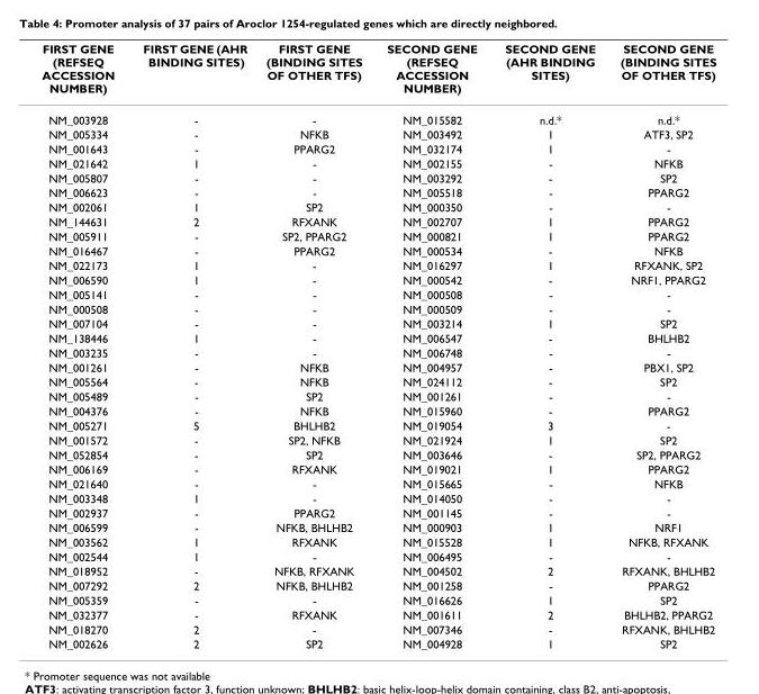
<table><thead><tr><td>FIRST GENE (REFSEQ ACCESSION NUMBER)</td><td>FIRST GENE (AHR BINDING SITES)</td><td>FIRST GENE (BINDING SITES OF OTHER TFS)</td><td>SECOND GENE (REFSEQ ACCESSION NUMBER)</td><td>SECOND GENE (AHR BINDING SITES)</td><td>SECOND GENE (BINDING SITES OF OTHER TFS)</td></tr></thead><tbody><tr><td>NM_003928</td><td>-</td><td>-</td><td>NM_015582</td><td>n.d.*</td><td>n.d.*</td></tr><tr><td>NM_005334</td><td>-</td><td>NFKB</td><td>NM_003492</td><td>1</td><td>ATF3, SP2</td></tr><tr><td>NM_001643</td><td>-</td><td>PPARG2</td><td>NM_032174</td><td>1</td><td>-</td></tr><tr><td>NM_021642</td><td>1</td><td>-</td><td>NM_002155</td><td>-</td><td>NFKB</td></tr><tr><td>NM_005807</td><td>-</td><td>-</td><td>NM_003292</td><td>-</td><td>SP2</td></tr><tr><td>NM_006623</td><td>-</td><td>-</td><td>NM_005518</td><td>-</td><td>PPARG2</td></tr><tr><td>NM_002061</td><td>1</td><td>SP2</td><td>NM_000350</td><td>-</td><td>-</td></tr><tr><td>NM_144631</td><td>2</td><td>RFXANK</td><td>NM_002707</td><td>1</td><td>PPARG2</td></tr><tr><td>NM_005911</td><td>-</td><td>SP2, PPARG2</td><td>NM_000821</td><td>1</td><td>PPARG2</td></tr><tr><td>NM_016467</td><td>-</td><td>PPARG2</td><td>NM_000534</td><td>-</td><td>NFKB</td></tr><tr><td>NM_022173</td><td>1</td><td>-</td><td>NM_016297</td><td>1</td><td>RFXANK, SP2</td></tr><tr><td>NM_006590</td><td>1</td><td>-</td><td>NM_000542</td><td>-</td><td>NRF1, PPARG2</td></tr><tr><td>NM_005141</td><td>-</td><td>-</td><td>NM_000508</td><td>-</td><td>-</td></tr><tr><td>NM_000508</td><td>-</td><td>-</td><td>NM_000509</td><td>-</td><td>-</td></tr><tr><td>NM_007104</td><td>-</td><td>-</td><td>NM_003214</td><td>1</td><td>SP2</td></tr><tr><td>NM_138446</td><td>1</td><td>-</td><td>NM_006547</td><td>-</td><td>BHLHB2</td></tr><tr><td>NM_003235</td><td>-</td><td>-</td><td>NM_006748</td><td>-</td><td>-</td></tr><tr><td>NM_001261</td><td>-</td><td>NFKB</td><td>NM_004957</td><td>-</td><td>PBX1, SP2</td></tr><tr><td>NM_005564</td><td>-</td><td>NFKB</td><td>NM_024112</td><td>-</td><td>SP2</td></tr><tr><td>NM_005489</td><td>-</td><td>SP2</td><td>NM_001261</td><td>-</td><td>-</td></tr><tr><td>NM_004376</td><td>-</td><td>NFKB</td><td>NM_015960</td><td>-</td><td>PPARG2</td></tr><tr><td>NM_005271</td><td>5</td><td>BHLHB2</td><td>NM_019054</td><td>3</td><td>-</td></tr><tr><td>NM_001572</td><td>-</td><td>SP2, NFKB</td><td>NM_021924</td><td>1</td><td>SP2</td></tr><tr><td>NM_052854</td><td>-</td><td>SP2</td><td>NM_003646</td><td>-</td><td>SP2, PPARG2</td></tr><tr><td>NM_006169</td><td>-</td><td>RFXANK</td><td>NM_019021</td><td>1</td><td>PPARG2</td></tr><tr><td>NM_021640</td><td>-</td><td>-</td><td>NM_015665</td><td>-</td><td>NFKB</td></tr><tr><td>NM_003348</td><td>1</td><td>-</td><td>NM_014050</td><td>-</td><td>-</td></tr><tr><td>NM_002937</td><td>-</td><td>PPARG2</td><td>NM_001145</td><td>-</td><td>-</td></tr><tr><td>NM_006599</td><td>-</td><td>NFKB, BHLHB2</td><td>NM_000903</td><td>1</td><td>NRF1</td></tr><tr><td>NM_003562</td><td>1</td><td>RFXANK</td><td>NM_015528</td><td>1</td><td>NFKB, RFXANK</td></tr><tr><td>NM_002544</td><td>1</td><td>-</td><td>NM_006495</td><td>-</td><td>-</td></tr><tr><td>NM_018952</td><td>-</td><td>NFKB, RFXANK</td><td>NM_004502</td><td>2</td><td>RFXANK, BHLHB2</td></tr><tr><td>NM_007292</td><td>2</td><td>NFKB, BHLHB2</td><td>NM_001258</td><td>-</td><td>PPARG2</td></tr><tr><td>NM_005359</td><td>-</td><td>-</td><td>NM_016626</td><td>1</td><td>SP2</td></tr><tr><td>NM_032377</td><td>-</td><td>RFXANK</td><td>NM_001611</td><td>2</td><td>BHLHB2, PPARG2</td></tr><tr><td>NM_018270</td><td>2</td><td>-</td><td>NM_007346</td><td>-</td><td>RFXANK, BHLHB2</td></tr><tr><td>NM_002626</td><td>2</td><td>SP2</td><td>NM_004928</td><td>1</td><td>SP2</td></tr></tbody></table>